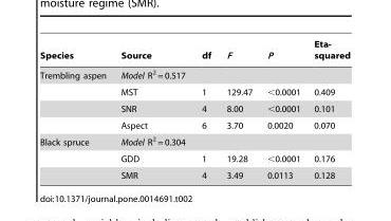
<table><thead><tr><td>Species</td><td>Source</td><td>df</td><td>F</td><td>P</td><td>Eta- squared</td></tr></thead><tbody><tr><td rowspan="4">Trembling aspen</td><td colspan="5">Model R<sup>2</sup> = 0.517</td></tr><tr><td>MST</td><td>1</td><td>129.47</td><td>&lt;0.0001</td><td>0.409</td></tr><tr><td>SNR</td><td>4</td><td>8.00</td><td>&lt;0.0001</td><td>0.101</td></tr><tr><td>Aspect</td><td>6</td><td>3.70</td><td>0.0020</td><td>0.070</td></tr><tr><td rowspan="3">Black spruce</td><td colspan="5">Model R<sup>2</sup> = 0.304</td></tr><tr><td>GDD</td><td>1</td><td>19.28</td><td>&lt;0.0001</td><td>0.176</td></tr><tr><td>SMR</td><td>4</td><td>3.49</td><td>0.0113</td><td>0.128</td></tr></tbody></table>